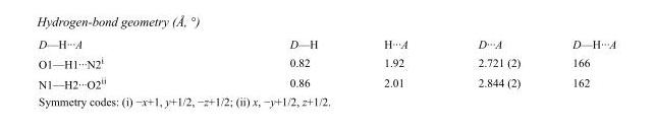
<table><tbody><tr><td>D—H···A</td><td>D—H</td><td>H···A</td><td>D···A</td><td>D—H···A</td></tr><tr><td>O1—H1···N2<sup>i</sup></td><td>0.82</td><td>1.92</td><td>2.721 (2)</td><td>166</td></tr><tr><td>N1—H2···O2<sup>ii</sup></td><td>0.86</td><td>2.01</td><td>2.844 (2)</td><td>162</td></tr></tbody></table>